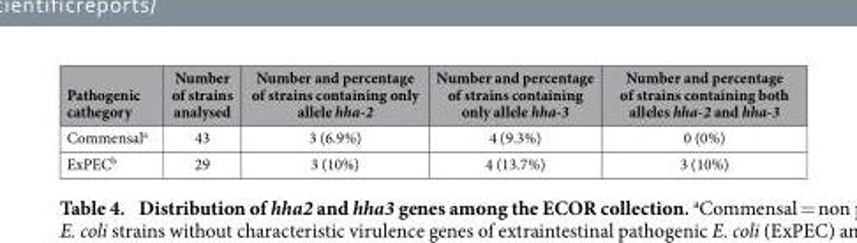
<table><thead><tr><td>Pathogenic cathegory</td><td>Number of strains analysed</td><td>Number and percentage of strains containing only allele hha-2</td><td>Number and percentage of strains containing only allele hha-3</td><td>Number and percentage of strains containing both alleles hha-2 and hha-3</td></tr></thead><tbody><tr><td>Commensal<sup>a</sup></td><td>43</td><td>3 (6.9%)</td><td>4 (9.3%)</td><td>0 (0%)</td></tr><tr><td>ExPEC<sup>b</sup></td><td>29</td><td>3 (10%)</td><td>4 (13.7%)</td><td>3 (10%)</td></tr></tbody></table>